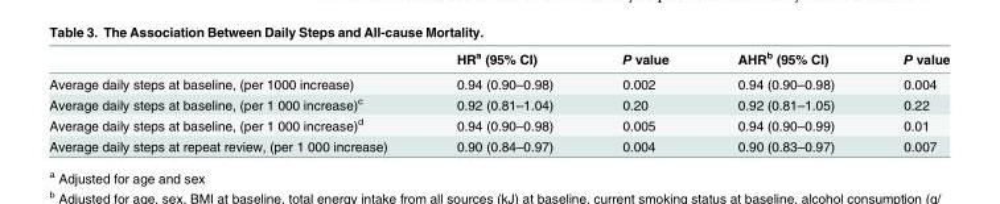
<table><thead><tr><td></td><td>HR<sup>a</sup> (95% CI)</td><td>P value</td><td>AHR<sup>b</sup> (95% CI)</td><td>P value</td></tr></thead><tbody><tr><td>Average daily steps at baseline, (per 1000 increase)</td><td>0.94 (0.90–0.98)</td><td>0.002</td><td>0.94 (0.90–0.98)</td><td>0.004</td></tr><tr><td>Average daily steps at baseline, (per 1 000 increase)<sup>c</sup></td><td>0.92 (0.81–1.04)</td><td>0.20</td><td>0.92 (0.81–1.05)</td><td>0.22</td></tr><tr><td>Average daily steps at baseline, (per 1 000 increase)<sup>d</sup></td><td>0.94 (0.90–0.98)</td><td>0.005</td><td>0.94 (0.90–0.99)</td><td>0.01</td></tr><tr><td>Average daily steps at repeat review, (per 1 000 increase)</td><td>0.90 (0.84–0.97)</td><td>0.004</td><td>0.90 (0.83–0.97)</td><td>0.007</td></tr></tbody></table>